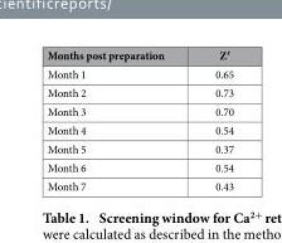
<table><thead><tr><td>Months post preparation</td><td>Z′</td></tr></thead><tbody><tr><td>Month 1</td><td>0.65</td></tr><tr><td>Month 2</td><td>0.73</td></tr><tr><td>Month 3</td><td>0.70</td></tr><tr><td>Month 4</td><td>0.54</td></tr><tr><td>Month 5</td><td>0.37</td></tr><tr><td>Month 6</td><td>0.54</td></tr><tr><td>Month 7</td><td>0.43</td></tr></tbody></table>